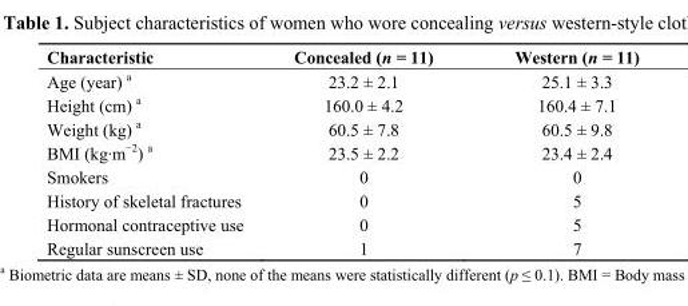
<table><thead><tr><td>Characteristic</td><td>Concealed (n = 11)</td><td>Western (n = 11)</td></tr></thead><tbody><tr><td>Age (year) <sup>a</sup></td><td>23.2 ± 2.1</td><td>25.1 ± 3.3</td></tr><tr><td>Height (cm) <sup>a</sup></td><td>160.0 ± 4.2</td><td>160.4 ± 7.1</td></tr><tr><td>Weight (kg) <sup>a</sup></td><td>60.5 ± 7.8</td><td>60.5 ± 9.8</td></tr><tr><td>BMI (kg·m<sup>−2</sup>) <sup>a</sup></td><td>23.5 ± 2.2</td><td>23.4 ± 2.4</td></tr><tr><td>Smokers</td><td>0</td><td>0</td></tr><tr><td>History of skeletal fractures</td><td>0</td><td>5</td></tr><tr><td>Hormonal contraceptive use</td><td>0</td><td>5</td></tr><tr><td>Regular sunscreen use</td><td>1</td><td>7</td></tr></tbody></table>